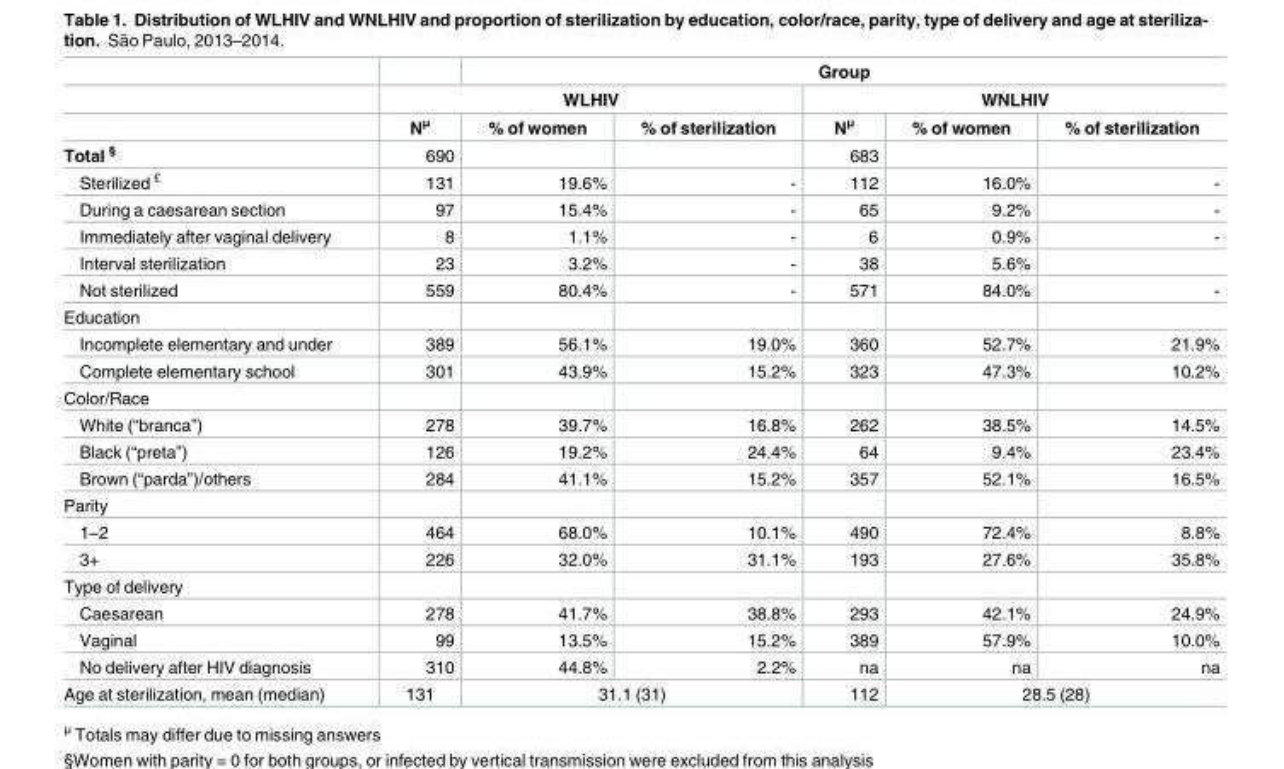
<table><thead><tr><td rowspan="3"></td><td></td><td colspan="5">Group</td></tr><tr><td colspan="3">WLHIV</td><td colspan="3">WNLHIV</td></tr><tr><td>N<sup>μ</sup></td><td>% of women</td><td>% of sterilization</td><td>N<sup>μ</sup></td><td>% of women</td><td>% of sterilization</td></tr></thead><tbody><tr><td>Total <sup>§</sup></td><td>690</td><td></td><td></td><td>683</td><td></td><td></td></tr><tr><td>Sterilized <sup>£</sup></td><td>131</td><td>19.6%</td><td>-</td><td>112</td><td>16.0%</td><td>-</td></tr><tr><td>During a caesarean section</td><td>97</td><td>15.4%</td><td>-</td><td>65</td><td>9.2%</td><td>-</td></tr><tr><td>Immediately after vaginal delivery</td><td>8</td><td>1.1%</td><td>-</td><td>6</td><td>0.9%</td><td>-</td></tr><tr><td>Interval sterilization</td><td>23</td><td>3.2%</td><td>-</td><td>38</td><td>5.6%</td><td></td></tr><tr><td>Not sterilized</td><td>559</td><td>80.4%</td><td>-</td><td>571</td><td>84.0%</td><td>-</td></tr><tr><td colspan="7">Education</td></tr><tr><td>Incomplete elementary and under</td><td>389</td><td>56.1%</td><td>19.0%</td><td>360</td><td>52.7%</td><td>21.9%</td></tr><tr><td>Complete elementary school</td><td>301</td><td>43.9%</td><td>15.2%</td><td>323</td><td>47.3%</td><td>10.2%</td></tr><tr><td colspan="7">Color/Race</td></tr><tr><td>White (“branca”)</td><td>278</td><td>39.7%</td><td>16.8%</td><td>262</td><td>38.5%</td><td>14.5%</td></tr><tr><td>Black (“preta”)</td><td>126</td><td>19.2%</td><td>24.4%</td><td>64</td><td>9.4%</td><td>23.4%</td></tr><tr><td>Brown (“parda”)/others</td><td>284</td><td>41.1%</td><td>15.2%</td><td>357</td><td>52.1%</td><td>16.5%</td></tr><tr><td colspan="7">Parity</td></tr><tr><td>1–2</td><td>464</td><td>68.0%</td><td>10.1%</td><td>490</td><td>72.4%</td><td>8.8%</td></tr><tr><td>3+</td><td>226</td><td>32.0%</td><td>31.1%</td><td>193</td><td>27.6%</td><td>35.8%</td></tr><tr><td colspan="7">Type of delivery</td></tr><tr><td>Caesarean</td><td>278</td><td>41.7%</td><td>38.8%</td><td>293</td><td>42.1%</td><td>24.9%</td></tr><tr><td>Vaginal</td><td>99</td><td>13.5%</td><td>15.2%</td><td>389</td><td>57.9%</td><td>10.0%</td></tr><tr><td>No delivery after HIV diagnosis</td><td>310</td><td>44.8%</td><td>2.2%</td><td>na</td><td>na</td><td>na</td></tr><tr><td>Age at sterilization, mean (median)</td><td>131</td><td colspan="2">31.1 (31)</td><td>112</td><td colspan="2">28.5 (28)</td></tr></tbody></table>